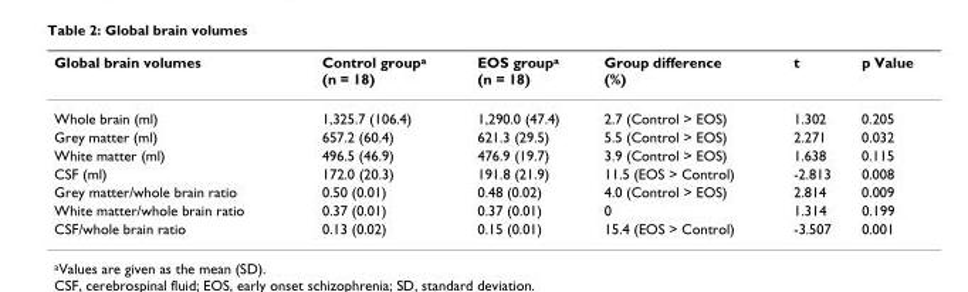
<table><thead><tr><td>Global brain volumes</td><td>Control group<sup>a</sup> (n = 18)</td><td>EOS group<sup>a</sup> (n = 18)</td><td>Group difference (%)</td><td>t</td><td>p Value</td></tr></thead><tbody><tr><td>Whole brain (ml)</td><td>1,325.7 (106.4)</td><td>1,290.0 (47.4)</td><td>2.7 (Control &gt; EOS)</td><td>1.302</td><td>0.205</td></tr><tr><td>Grey matter (ml)</td><td>657.2 (60.4)</td><td>621.3 (29.5)</td><td>5.5 (Control &gt; EOS)</td><td>2.271</td><td>0.032</td></tr><tr><td>White matter (ml)</td><td>496.5 (46.9)</td><td>476.9 (19.7)</td><td>3.9 (Control &gt; EOS)</td><td>1.638</td><td>0.115</td></tr><tr><td>CSF (ml)</td><td>172.0 (20.3)</td><td>191.8 (21.9)</td><td>11.5 (EOS &gt; Control)</td><td>-2.813</td><td>0.008</td></tr><tr><td>Grey matter/whole brain ratio</td><td>0.50 (0.01)</td><td>0.48 (0.02)</td><td>4.0 (Control &gt; EOS)</td><td>2.814</td><td>0.009</td></tr><tr><td>White matter/whole brain ratio</td><td>0.37 (0.01)</td><td>0.37 (0.01)</td><td>0</td><td>1.314</td><td>0.199</td></tr><tr><td>CSF/whole brain ratio</td><td>0.13 (0.02)</td><td>0.15 (0.01)</td><td>15.4 (EOS &gt; Control)</td><td>-3.507</td><td>0.001</td></tr></tbody></table>